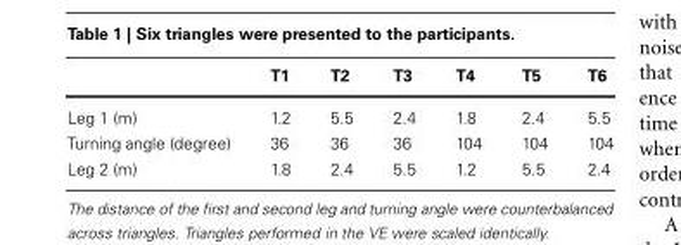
<table><thead><tr><td></td><td>T1</td><td>T2</td><td>T3</td><td>T4</td><td>T5</td><td>T6</td></tr></thead><tbody><tr><td>Leg 1 (m)</td><td>1.2</td><td>5.5</td><td>2.4</td><td>1.8</td><td>2.4</td><td>5.5</td></tr><tr><td>Turning angle (degree)</td><td>36</td><td>36</td><td>36</td><td>104</td><td>104</td><td>104</td></tr><tr><td>Leg 2 (m)</td><td>1.8</td><td>2.4</td><td>5.5</td><td>1.2</td><td>5.5</td><td>2.4</td></tr></tbody></table>